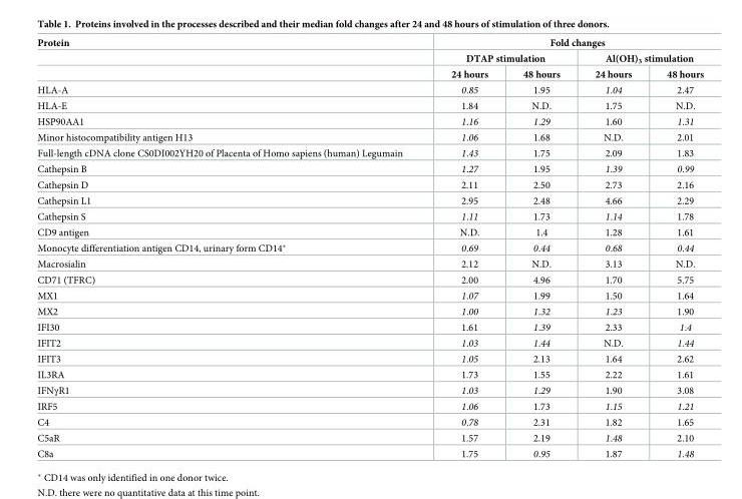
<table><thead><tr><td rowspan="3">Protein</td><td colspan="4">Fold changes</td></tr><tr><td colspan="2">DTAP stimulation</td><td colspan="2">Al(OH)<sub>3</sub> stimulation</td></tr><tr><td>24 hours</td><td>48 hours</td><td>24 hours</td><td>48 hours</td></tr></thead><tbody><tr><td>HLA-A</td><td>0.85</td><td>1.95</td><td>1.04</td><td>2.47</td></tr><tr><td>HLA-E</td><td>1.84</td><td>N.D.</td><td>1.75</td><td>N.D.</td></tr><tr><td>HSP90AA1</td><td>1.16</td><td>1.29</td><td>1.60</td><td>1.31</td></tr><tr><td>Minor histocompatibility antigen H13</td><td>1.06</td><td>1.68</td><td>N.D.</td><td>2.01</td></tr><tr><td>Full-length cDNA clone CS0DI002YH20 of Placenta of Homo sapiens (human) Legumain</td><td>1.43</td><td>1.75</td><td>2.09</td><td>1.83</td></tr><tr><td>Cathepsin B</td><td>1.27</td><td>1.95</td><td>1.39</td><td>0.99</td></tr><tr><td>Cathepsin D</td><td>2.11</td><td>2.50</td><td>2.73</td><td>2.16</td></tr><tr><td>Cathepsin L1</td><td>2.95</td><td>2.48</td><td>4.66</td><td>2.29</td></tr><tr><td>Cathepsin S</td><td>1.11</td><td>1.73</td><td>1.14</td><td>1.78</td></tr><tr><td>CD9 antigen</td><td>N.D.</td><td>1.4</td><td>1.28</td><td>1.61</td></tr><tr><td>Monocyte differentiation antigen CD14, urinary form CD14*</td><td>0.69</td><td>0.44</td><td>0.68</td><td>0.44</td></tr><tr><td>Macrosialin</td><td>2.12</td><td>N.D.</td><td>3.13</td><td>N.D.</td></tr><tr><td>CD71 (TFRC)</td><td>2.00</td><td>4.96</td><td>1.70</td><td>5.75</td></tr><tr><td>MX1</td><td>1.07</td><td>1.99</td><td>1.50</td><td>1.64</td></tr><tr><td>MX2</td><td>1.00</td><td>1.32</td><td>1.23</td><td>1.90</td></tr><tr><td>IFI30</td><td>1.61</td><td>1.39</td><td>2.33</td><td>1.4</td></tr><tr><td>IFIT2</td><td>1.03</td><td>1.44</td><td>N.D.</td><td>1.44</td></tr><tr><td>IFIT3</td><td>1.05</td><td>2.13</td><td>1.64</td><td>2.62</td></tr><tr><td>IL3RA</td><td>1.73</td><td>1.55</td><td>2.22</td><td>1.61</td></tr><tr><td>IFNγR1</td><td>1.03</td><td>1.29</td><td>1.90</td><td>3.08</td></tr><tr><td>IRF5</td><td>1.06</td><td>1.73</td><td>1.15</td><td>1.21</td></tr><tr><td>C4</td><td>0.78</td><td>2.31</td><td>1.82</td><td>1.65</td></tr><tr><td>C5aR</td><td>1.57</td><td>2.19</td><td>1.48</td><td>2.10</td></tr><tr><td>C8a</td><td>1.75</td><td>0.95</td><td>1.87</td><td>1.48</td></tr></tbody></table>